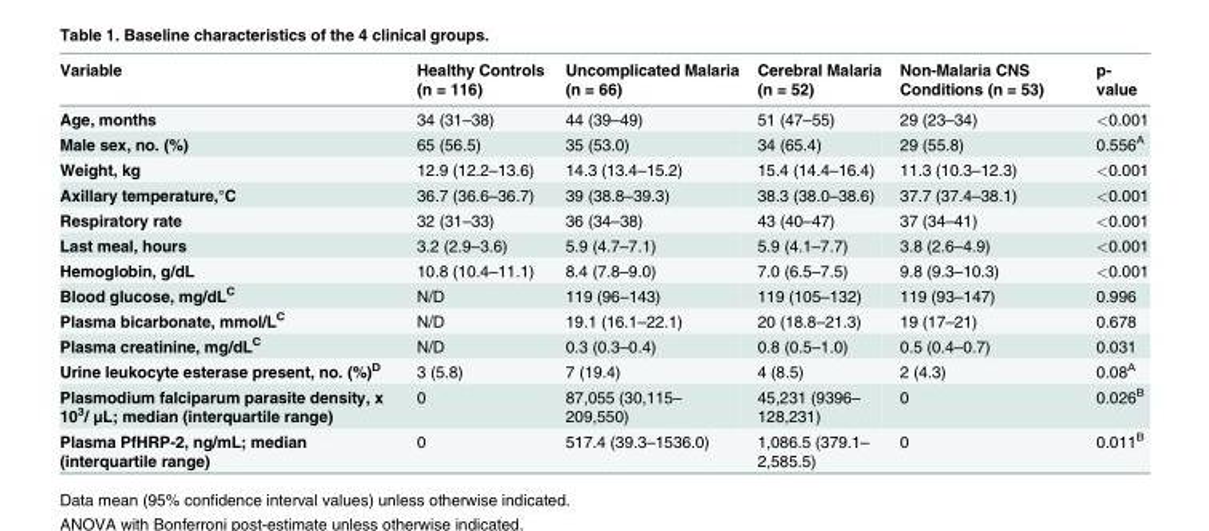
<table><thead><tr><td>Variable</td><td>Healthy Controls (n = 116)</td><td>Uncomplicated Malaria (n = 66)</td><td>Cerebral Malaria (n = 52)</td><td>Non-Malaria CNS Conditions (n = 53)</td><td>p- value</td></tr></thead><tbody><tr><td>Age, months</td><td>34 (31–38)</td><td>44 (39–49)</td><td>51 (47–55)</td><td>29 (23–34)</td><td>&lt;0.001</td></tr><tr><td>Male sex, no. (%)</td><td>65 (56.5)</td><td>35 (53.0)</td><td>34 (65.4)</td><td>29 (55.8)</td><td>0.556<sup>A</sup></td></tr><tr><td>Weight, kg</td><td>12.9 (12.2–13.6)</td><td>14.3 (13.4–15.2)</td><td>15.4 (14.4–16.4)</td><td>11.3 (10.3–12.3)</td><td>&lt;0.001</td></tr><tr><td>Axillary temperature,°C</td><td>36.7 (36.6–36.7)</td><td>39 (38.8–39.3)</td><td>38.3 (38.0–38.6)</td><td>37.7 (37.4–38.1)</td><td>&lt;0.001</td></tr><tr><td>Respiratory rate</td><td>32 (31–33)</td><td>36 (34–38)</td><td>43 (40–47)</td><td>37 (34–41)</td><td>&lt;0.001</td></tr><tr><td>Last meal, hours</td><td>3.2 (2.9–3.6)</td><td>5.9 (4.7–7.1)</td><td>5.9 (4.1–7.7)</td><td>3.8 (2.6–4.9)</td><td>&lt;0.001</td></tr><tr><td>Hemoglobin, g/dL</td><td>10.8 (10.4–11.1)</td><td>8.4 (7.8–9.0)</td><td>7.0 (6.5–7.5)</td><td>9.8 (9.3–10.3)</td><td>&lt;0.001</td></tr><tr><td>Blood glucose, mg/dL<sup>C</sup></td><td>N/D</td><td>119 (96–143)</td><td>119 (105–132)</td><td>119 (93–147)</td><td>0.996</td></tr><tr><td>Plasma bicarbonate, mmol/L<sup>C</sup></td><td>N/D</td><td>19.1 (16.1–22.1)</td><td>20 (18.8–21.3)</td><td>19 (17–21)</td><td>0.678</td></tr><tr><td>Plasma creatinine, mg/dL<sup>C</sup></td><td>N/D</td><td>0.3 (0.3–0.4)</td><td>0.8 (0.5–1.0)</td><td>0.5 (0.4–0.7)</td><td>0.031</td></tr><tr><td>Urine leukocyte esterase present, no. (%)<sup>D</sup></td><td>3 (5.8)</td><td>7 (19.4)</td><td>4 (8.5)</td><td>2 (4.3)</td><td>0.08<sup>A</sup></td></tr><tr><td>Plasmodium falciparum parasite density, x 10<sup>3</sup>/ μL; median (interquartile range)</td><td>0</td><td>87,055 (30,115– 209,550)</td><td>45,231 (9396– 128,231)</td><td>0</td><td>0.026<sup>B</sup></td></tr><tr><td>Plasma PfHRP-2, ng/mL; median (interquartile range)</td><td>0</td><td>517.4 (39.3–1536.0)</td><td>1,086.5 (379.1– 2,585.5)</td><td>0</td><td>0.011<sup>B</sup></td></tr></tbody></table>